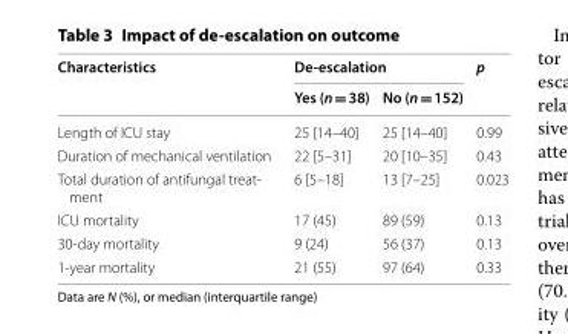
<table><thead><tr><td rowspan="2">Characteristics</td><td colspan="2">De‑escalation</td><td rowspan="2">p</td></tr><tr><td>Yes (n = 38)</td><td>No (n = 152)</td></tr></thead><tbody><tr><td>Length of ICU stay</td><td>25 [14–40]</td><td>25 [14–40]</td><td>0.99</td></tr><tr><td>Duration of mechanical ventilation</td><td>22 [5–31]</td><td>20 [10–35]</td><td>0.43</td></tr><tr><td>Total duration of antifungal treat- ment</td><td>6 [5–18]</td><td>13 [7–25]</td><td>0.023</td></tr><tr><td>ICU mortality</td><td>17 (45)</td><td>89 (59)</td><td>0.13</td></tr><tr><td>30-day mortality</td><td>9 (24)</td><td>56 (37)</td><td>0.13</td></tr><tr><td>1-year mortality</td><td>21 (55)</td><td>97 (64)</td><td>0.33</td></tr></tbody></table>